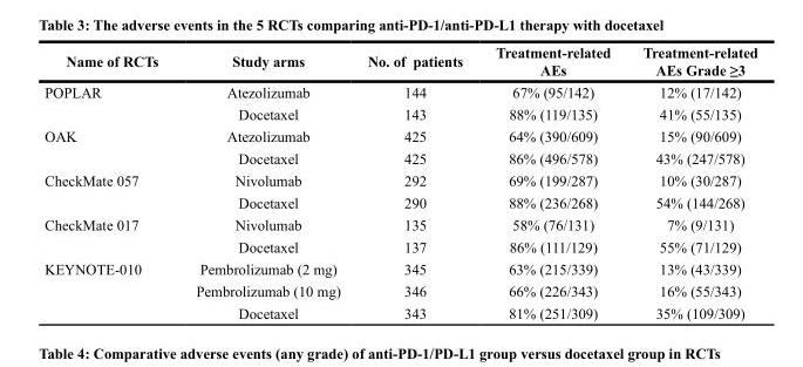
<table><thead><tr><td>Name of RCTs</td><td>Study arms</td><td>No. of patients</td><td>Treatment-related AEs</td><td>Treatment-related AEs Grade ≥3</td></tr></thead><tbody><tr><td rowspan="2">POPLAR</td><td>Atezolizumab</td><td>144</td><td>67% (95/142)</td><td>12% (17/142)</td></tr><tr><td>Docetaxel</td><td>143</td><td>88% (119/135)</td><td>41% (55/135)</td></tr><tr><td rowspan="2">OAK</td><td>Atezolizumab</td><td>425</td><td>64% (390/609)</td><td>15% (90/609)</td></tr><tr><td>Docetaxel</td><td>425</td><td>86% (496/578)</td><td>43% (247/578)</td></tr><tr><td rowspan="2">CheckMate 057</td><td>Nivolumab</td><td>292</td><td>69% (199/287)</td><td>10% (30/287)</td></tr><tr><td>Docetaxel</td><td>290</td><td>88% (236/268)</td><td>54% (144/268)</td></tr><tr><td rowspan="2">CheckMate 017</td><td>Nivolumab</td><td>135</td><td>58% (76/131)</td><td>7% (9/131)</td></tr><tr><td>Docetaxel</td><td>137</td><td>86% (111/129)</td><td>55% (71/129)</td></tr><tr><td rowspan="3">KEYNOTE-010</td><td>Pembrolizumab (2 mg)</td><td>345</td><td>63% (215/339)</td><td>13% (43/339)</td></tr><tr><td>Pembrolizumab (10 mg)</td><td>346</td><td>66% (226/343)</td><td>16% (55/343)</td></tr><tr><td>Docetaxel</td><td>343</td><td>81% (251/309)</td><td>35% (109/309)</td></tr></tbody></table>